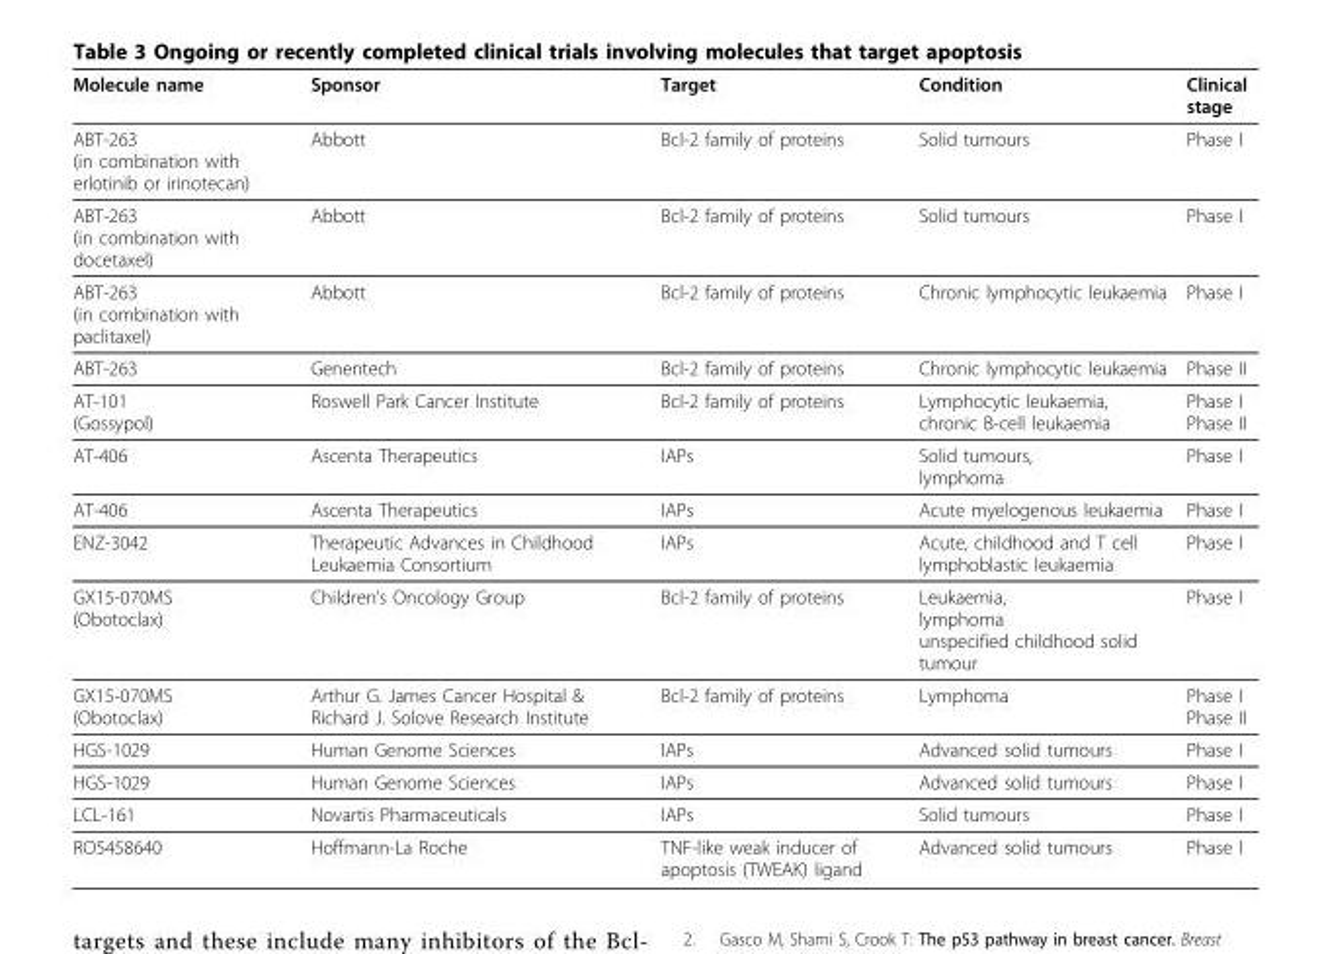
<table><thead><tr><td>Molecule name</td><td>Sponsor</td><td>Target</td><td>Condition</td><td>Clinical stage</td></tr></thead><tbody><tr><td>ABT-263 (in combination with erlotinib or irinotecan)</td><td>Abbott</td><td>Bcl-2 family of proteins</td><td>Solid tumours</td><td>Phase I</td></tr><tr><td>ABT-263 (in combination with docetaxel)</td><td>Abbott</td><td>Bcl-2 family of proteins</td><td>Solid tumours</td><td>Phase I</td></tr><tr><td>ABT-263 (in combination with paclitaxel)</td><td>Abbott</td><td>Bcl-2 family of proteins</td><td>Chronic lymphocytic leukaemia</td><td>Phase I</td></tr><tr><td>ABT-263</td><td>Genentech</td><td>Bcl-2 family of proteins</td><td>Chronic lymphocytic leukaemia</td><td>Phase II</td></tr><tr><td>AT-101 (Gossypol)</td><td>Roswell Park Cancer Institute</td><td>Bcl-2 family of proteins</td><td>Lymphocytic leukaemia, chronic B-cell leukaemia</td><td>Phase I Phase II</td></tr><tr><td>AT-406</td><td>Ascenta Therapeutics</td><td>IAPs</td><td>Solid tumours, lymphoma</td><td>Phase I</td></tr><tr><td>AT-406</td><td>Ascenta Therapeutics</td><td>IAPs</td><td>Acute myelogenous leukaemia</td><td>Phase I</td></tr><tr><td>ENZ-3042</td><td>Therapeutic Advances in Childhood Leukaemia Consortium</td><td>IAPs</td><td>Acute, childhood and T cell lymphoblastic leukaemia</td><td>Phase I</td></tr><tr><td>GX15-070MS (Obotoclax)</td><td>Children’s Oncology Group</td><td>Bcl-2 family of proteins</td><td>Leukaemia, lymphoma unspecified childhood solid tumour</td><td>Phase I</td></tr><tr><td>GX15-070MS (Obotoclax)</td><td>Arthur G. James Cancer Hospital &amp; Richard J. Solove Research Institute</td><td>Bcl-2 family of proteins</td><td>Lymphoma</td><td>Phase I Phase II</td></tr><tr><td>HGS-1029</td><td>Human Genome Sciences</td><td>IAPs</td><td>Advanced solid tumours</td><td>Phase I</td></tr><tr><td>HGS-1029</td><td>Human Genome Sciences</td><td>IAPs</td><td>Advanced solid tumours</td><td>Phase I</td></tr><tr><td>LCL-161</td><td>Novartis Pharmaceuticals</td><td>IAPs</td><td>Solid tumours</td><td>Phase I</td></tr><tr><td>RO5458640</td><td>Hoffmann-La Roche</td><td>TNF-like weak inducer of apoptosis (TWEAK) ligand</td><td>Advanced solid tumours</td><td>Phase I</td></tr></tbody></table>